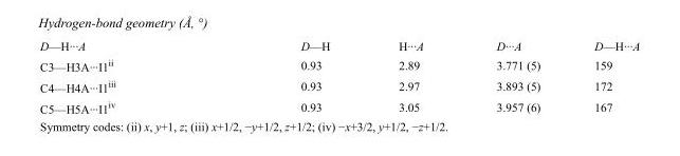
<table><tbody><tr><td>D—H···A</td><td>D—H</td><td>H···A</td><td>D···A</td><td>D—H···A</td></tr><tr><td>C3—H3A···I1<sup>ii</sup></td><td>0.93</td><td>2.89</td><td>3.771 (5)</td><td>159</td></tr><tr><td>C4—H4A···I1<sup>iii</sup></td><td>0.93</td><td>2.97</td><td>3.893 (5)</td><td>172</td></tr><tr><td>C5—H5A···I1<sup>iv</sup></td><td>0.93</td><td>3.05</td><td>3.957 (6)</td><td>167</td></tr></tbody></table>